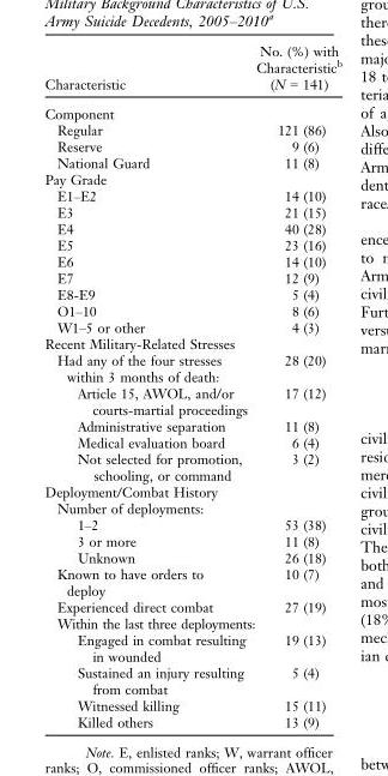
<table><thead><tr><td>Characteristic</td><td>No. (%) with Characteristic<sup>b</sup> (N = 141)</td></tr></thead><tbody><tr><td colspan="2">Component</td></tr><tr><td>Regular</td><td>121 (86)</td></tr><tr><td>Reserve</td><td>9 (6)</td></tr><tr><td>National Guard</td><td>11 (8)</td></tr><tr><td colspan="2">Pay Grade</td></tr><tr><td>E1–E2</td><td>14 (10)</td></tr><tr><td>E3</td><td>21 (15)</td></tr><tr><td>E4</td><td>40 (28)</td></tr><tr><td>E5</td><td>23 (16)</td></tr><tr><td>E6</td><td>14 (10)</td></tr><tr><td>E7</td><td>12 (9)</td></tr><tr><td>E8-E9</td><td>5 (4)</td></tr><tr><td>O1–10</td><td>8 (6)</td></tr><tr><td>W1–5 or other</td><td>4 (3)</td></tr><tr><td colspan="2">Recent Military-Related Stresses</td></tr><tr><td>Had any of the four stresses within 3 months of death:</td><td>28 (20)</td></tr><tr><td>Article 15, AWOL, and/or courts-martial proceedings</td><td>17 (12)</td></tr><tr><td>Administrative separation</td><td>11 (8)</td></tr><tr><td>Medical evaluation board</td><td>6 (4)</td></tr><tr><td>Not selected for promotion, schooling, or command</td><td>3 (2)</td></tr><tr><td colspan="2">Deployment/Combat History</td></tr><tr><td colspan="2">Number of deployments:</td></tr><tr><td>1–2</td><td>53 (38)</td></tr><tr><td>3 or more</td><td>11 (8)</td></tr><tr><td>Unknown</td><td>26 (18)</td></tr><tr><td>Known to have orders to deploy</td><td>10 (7)</td></tr><tr><td>Experienced direct combat</td><td>27 (19)</td></tr><tr><td colspan="2">Within the last three deployments:</td></tr><tr><td>Engaged in combat resulting in wounded</td><td>19 (13)</td></tr><tr><td>Sustained an injury resulting from combat</td><td>5 (4)</td></tr><tr><td>Witnessed killing</td><td>15 (11)</td></tr><tr><td>Killed others</td><td>13 (9)</td></tr></tbody></table>